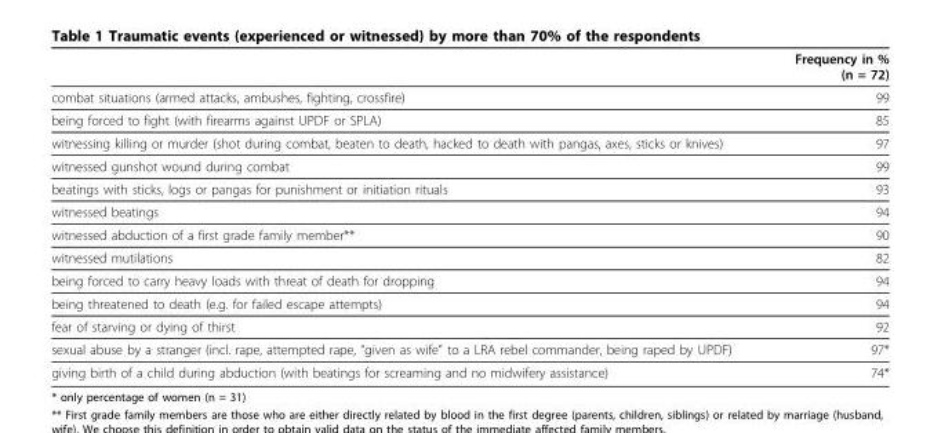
<table><thead><tr><td></td><td>Frequency in % (n = 72)</td></tr></thead><tbody><tr><td>combat situations (armed attacks, ambushes, fighting, crossfire)</td><td>99</td></tr><tr><td>being forced to fight (with firearms against UPDF or SPLA)</td><td>85</td></tr><tr><td>witnessing killing or murder (shot during combat, beaten to death, hacked to death with pangas, axes, sticks or knives)</td><td>97</td></tr><tr><td>witnessed gunshot wound during combat</td><td>99</td></tr><tr><td>beatings with sticks, logs or pangas for punishment or initiation rituals</td><td>93</td></tr><tr><td>witnessed beatings</td><td>94</td></tr><tr><td>witnessed abduction of a first grade family member**</td><td>90</td></tr><tr><td>witnessed mutilations</td><td>82</td></tr><tr><td>being forced to carry heavy loads with threat of death for dropping</td><td>94</td></tr><tr><td>being threatened to death (e.g. for failed escape attempts)</td><td>94</td></tr><tr><td>fear of starving or dying of thirst</td><td>92</td></tr><tr><td>sexual abuse by a stranger (incl. rape, attempted rape, “given as wife” to a LRA rebel commander, being raped by UPDF)</td><td>97*</td></tr><tr><td>giving birth of a child during abduction (with beatings for screaming and no midwifery assistance)</td><td>74*</td></tr></tbody></table>